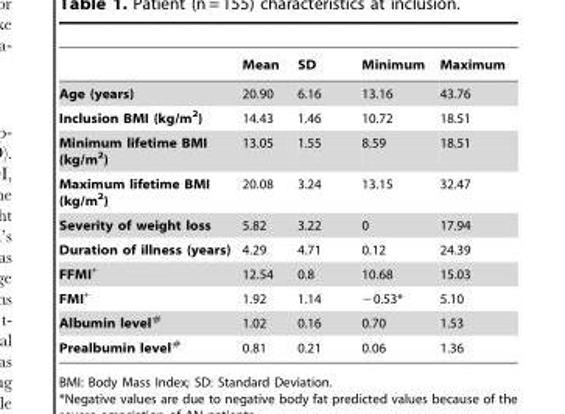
<table><thead><tr><td></td><td>Mean</td><td>SD</td><td>Minimum</td><td>Maximum</td></tr></thead><tbody><tr><td>Age (years)</td><td>20.90</td><td>6.16</td><td>13.16</td><td>43.76</td></tr><tr><td>Inclusion BMI (kg/m<sup>2</sup>)</td><td>14.43</td><td>1.46</td><td>10.72</td><td>18.51</td></tr><tr><td>Minimum lifetime BMI (kg/m<sup>2</sup>)</td><td>13.05</td><td>1.55</td><td>8.59</td><td>18.51</td></tr><tr><td>Maximum lifetime BMI (kg/m<sup>2</sup>)</td><td>20.08</td><td>3.24</td><td>13.15</td><td>32.47</td></tr><tr><td>Severity of weight loss</td><td>5.82</td><td>3.22</td><td>0</td><td>17.94</td></tr><tr><td>Duration of illness (years)</td><td>4.29</td><td>4.71</td><td>0.12</td><td>24.39</td></tr><tr><td>FFMI+</td><td>12.54</td><td>0.8</td><td>10.68</td><td>15.03</td></tr><tr><td>FMI+</td><td>1.92</td><td>1.14</td><td>−0.53*</td><td>5.10</td></tr><tr><td>Albumin level#</td><td>1.02</td><td>0.16</td><td>0.70</td><td>1.53</td></tr><tr><td>Prealbumin level#</td><td>0.81</td><td>0.21</td><td>0.06</td><td>1.36</td></tr></tbody></table>